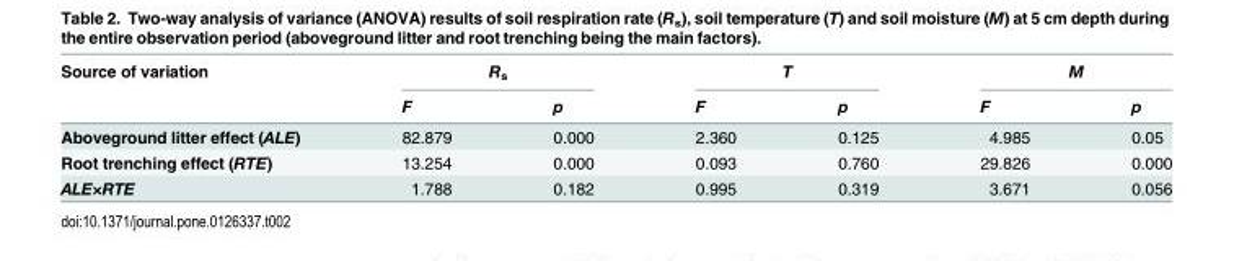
<table><thead><tr><td rowspan="2">Source of variation</td><td colspan="2">R<sub>s</sub></td><td colspan="2">T</td><td colspan="2">M</td></tr><tr><td>F</td><td>p</td><td>F</td><td>p</td><td>F</td><td>p</td></tr></thead><tbody><tr><td>Aboveground litter effect (ALE)</td><td>82.879</td><td>0.000</td><td>2.360</td><td>0.125</td><td>4.985</td><td>0.05</td></tr><tr><td>Root trenching effect (RTE)</td><td>13.254</td><td>0.000</td><td>0.093</td><td>0.760</td><td>29.826</td><td>0.000</td></tr><tr><td>ALE×RTE</td><td>1.788</td><td>0.182</td><td>0.995</td><td>0.319</td><td>3.671</td><td>0.056</td></tr></tbody></table>